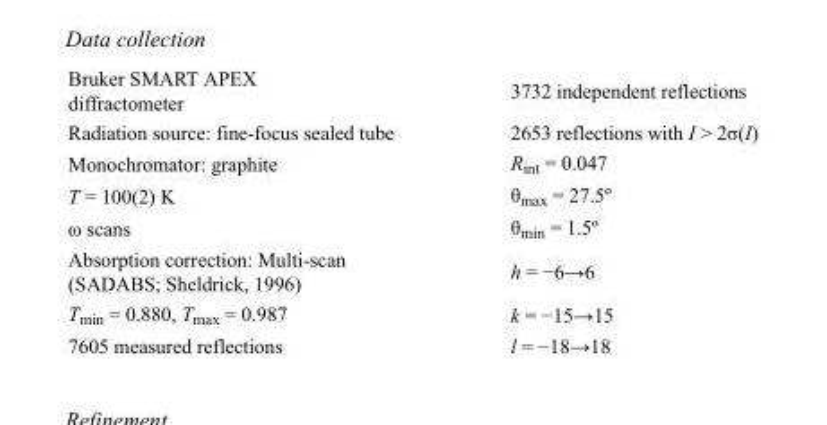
<table><tbody><tr><td>Bruker SMART APEX diffractometer</td><td>3732 independent reflections</td></tr><tr><td>Radiation source: fine-focus sealed tube</td><td>2653 reflections with I &gt; 2σ(I)</td></tr><tr><td>Monochromator: graphite</td><td>R<sub>int</sub> = 0.047</td></tr><tr><td>T = 100(2) K</td><td>θ<sub>max</sub> = 27.5º</td></tr><tr><td>ω scans</td><td>θ<sub>min</sub> = 1.5º</td></tr><tr><td>Absorption correction: Multi-scan (SADABS; Sheldrick, 1996)</td><td>h = −6→6</td></tr><tr><td>T<sub>min</sub> = 0.880, T<sub>max</sub> = 0.987</td><td>k = −15→15</td></tr><tr><td>7605 measured reflections</td><td>l = −18→18</td></tr></tbody></table>